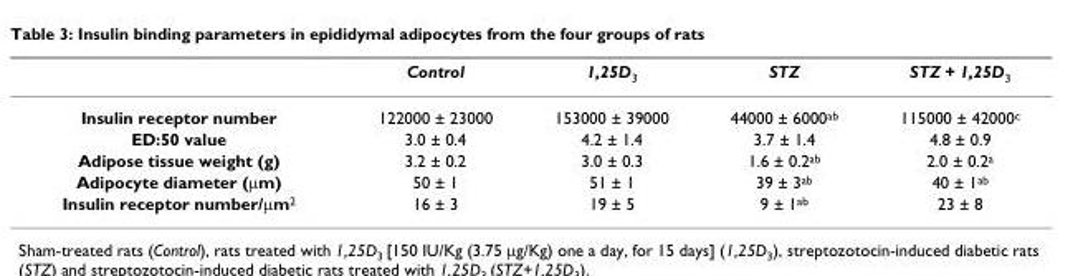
<table><thead><tr><td></td><td>Control</td><td>1,25D<sub>3</sub></td><td>STZ</td><td>STZ + 1,25D<sub>3</sub></td></tr></thead><tbody><tr><td>Insulin receptor number</td><td>122000 ± 23000</td><td>153000 ± 39000</td><td>44000 ± 6000<sup>ab</sup></td><td>115000 ± 42000<sup>c</sup></td></tr><tr><td>ED:50 value</td><td>3.0 ± 0.4</td><td>4.2 ± 1.4</td><td>3.7 ± 1.4</td><td>4.8 ± 0.9</td></tr><tr><td>Adipose tissue weight (g)</td><td>3.2 ± 0.2</td><td>3.0 ± 0.3</td><td>1.6 ± 0.2<sup>ab</sup></td><td>2.0 ± 0.2<sup>a</sup></td></tr><tr><td>Adipocyte diameter (μm)</td><td>50 ± 1</td><td>51 ± 1</td><td>39 ± 3<sup>ab</sup></td><td>40 ± 1<sup>ab</sup></td></tr><tr><td>Insulin receptor number/μm<sup>2</sup></td><td>16 ± 3</td><td>19 ± 5</td><td>9 ± 1<sup>ab</sup></td><td>23 ± 8</td></tr></tbody></table>